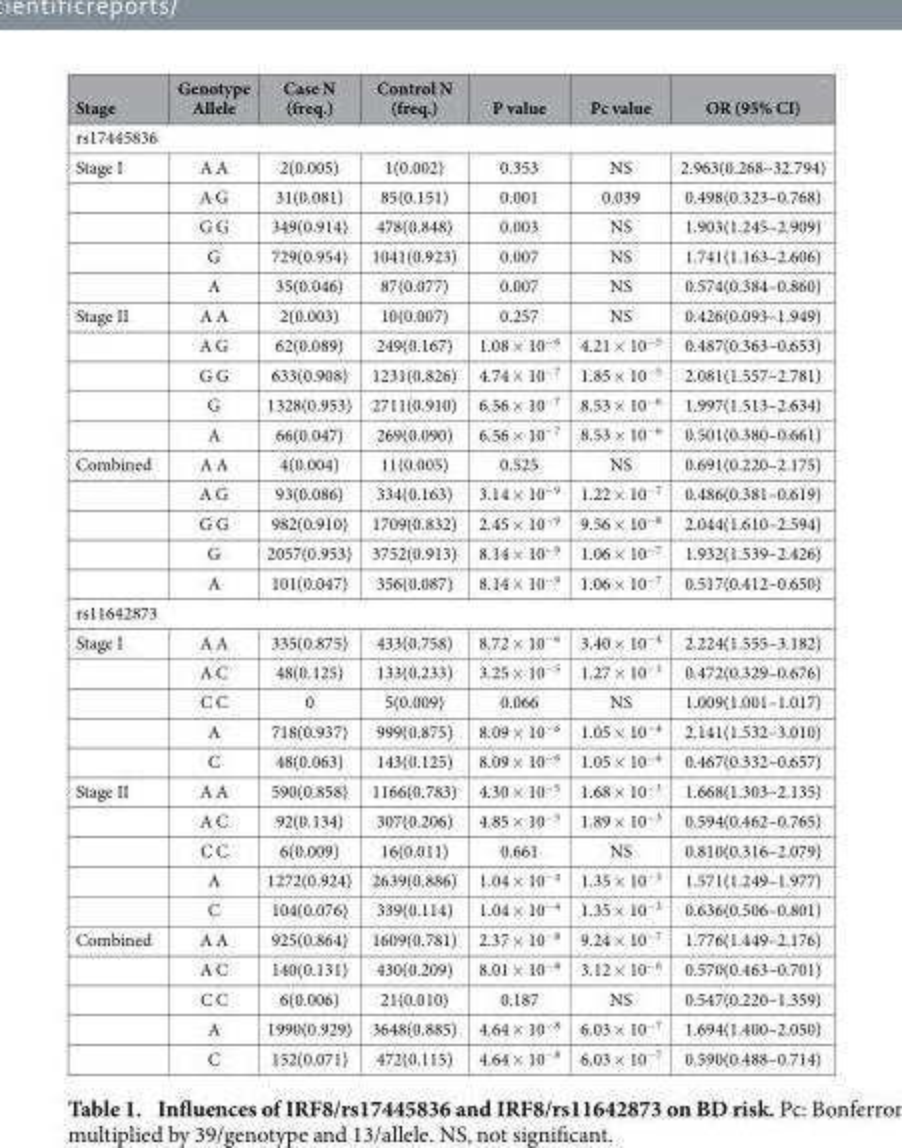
<table><thead><tr><td>Stage</td><td>Genotype Allele</td><td>Case N (freq.)</td><td>Control N (freq.)</td><td>P value</td><td>Pc value</td><td>OR (95% CI)</td></tr></thead><tbody><tr><td colspan="7">rs17445836</td></tr><tr><td rowspan="5">Stage I</td><td>A A</td><td>2(0.005)</td><td>1(0.002)</td><td>0.353</td><td>NS</td><td>2.963(0.268–32.794)</td></tr><tr><td>A G</td><td>31(0.081)</td><td>85(0.151)</td><td>0.001</td><td>0.039</td><td>0.498(0.323–0.768)</td></tr><tr><td>G G</td><td>349(0.914)</td><td>478(0.848)</td><td>0.003</td><td>NS</td><td>1.903(1.245–2.909)</td></tr><tr><td>G</td><td>729(0.954)</td><td>1041(0.923)</td><td>0.007</td><td>NS</td><td>1.741(1.163–2.606)</td></tr><tr><td>A</td><td>35(0.046)</td><td>87(0.077)</td><td>0.007</td><td>NS</td><td>0.574(0.384–0.860)</td></tr><tr><td rowspan="5">Stage II</td><td>A A</td><td>2(0.003)</td><td>10(0.007)</td><td>0.257</td><td>NS</td><td>0.426(0.093–1.949)</td></tr><tr><td>A G</td><td>62(0.089)</td><td>249(0.167)</td><td>1.08 × 10<sup>−6</sup></td><td>4.21 × 10<sup>−5</sup></td><td>0.487(0.363–0.653)</td></tr><tr><td>G G</td><td>633(0.908)</td><td>1231(0.826)</td><td>4.74 × 10<sup>−7</sup></td><td>1.85 × 10<sup>−5</sup></td><td>2.081(1.557–2.781)</td></tr><tr><td>G</td><td>1328(0.953)</td><td>2711(0.910)</td><td>6.56 × 10<sup>−7</sup></td><td>8.53 × 10<sup>−6</sup></td><td>1.997(1.513–2.634)</td></tr><tr><td>A</td><td>66(0.047)</td><td>269(0.090)</td><td>6.56 × 10<sup>−7</sup></td><td>8.53 × 10<sup>−6</sup></td><td>0.501(0.380–0.661)</td></tr><tr><td rowspan="5">Combined</td><td>A A</td><td>4(0.004)</td><td>11(0.005)</td><td>0.525</td><td>NS</td><td>0.691(0.220–2.175)</td></tr><tr><td>A G</td><td>93(0.086)</td><td>334(0.163)</td><td>3.14 × 10<sup>−9</sup></td><td>1.22 × 10<sup>−7</sup></td><td>0.486(0.381–0.619)</td></tr><tr><td>G G</td><td>982(0.910)</td><td>1709(0.832)</td><td>2.45 × 10<sup>−9</sup></td><td>9.56 × 10<sup>−8</sup></td><td>2.044(1.610–2.594)</td></tr><tr><td>G</td><td>2057(0.953)</td><td>3752(0.913)</td><td>8.14 × 10<sup>−9</sup></td><td>1.06 × 10<sup>−7</sup></td><td>1.932(1.539–2.426)</td></tr><tr><td>A</td><td>101(0.047)</td><td>356(0.087)</td><td>8.14 × 10<sup>−9</sup></td><td>1.06 × 10<sup>−7</sup></td><td>0.517(0.412–0.650)</td></tr><tr><td colspan="7">rs11642873</td></tr><tr><td rowspan="5">Stage I</td><td>A A</td><td>335(0.875)</td><td>433(0.758)</td><td>8.72 × 10<sup>−6</sup></td><td>3.40 × 10<sup>−4</sup></td><td>2.224(1.555–3.182)</td></tr><tr><td>A C</td><td>48(0.125)</td><td>133(0.233)</td><td>3.25 × 10<sup>−5</sup></td><td>1.27 × 10<sup>−3</sup></td><td>0.472(0.329–0.676)</td></tr><tr><td>C C</td><td>0</td><td>5(0.009)</td><td>0.066</td><td>NS</td><td>1.009(1.001–1.017)</td></tr><tr><td>A</td><td>718(0.937)</td><td>999(0.875)</td><td>8.09 × 10<sup>−6</sup></td><td>1.05 × 10<sup>−4</sup></td><td>2.141(1.532–3.010)</td></tr><tr><td>C</td><td>48(0.063)</td><td>143(0.125)</td><td>8.09 × 10<sup>−6</sup></td><td>1.05 × 10<sup>−4</sup></td><td>0.467(0.332–0.657)</td></tr><tr><td rowspan="5">Stage II</td><td>A A</td><td>590(0.858)</td><td>1166(0.783)</td><td>4.30 × 10<sup>−5</sup></td><td>1.68 × 10<sup>−3</sup></td><td>1.668(1.303–2.135)</td></tr><tr><td>A C</td><td>92(0.134)</td><td>307(0.206)</td><td>4.85 × 10<sup>−5</sup></td><td>1.89 × 10<sup>−3</sup></td><td>0.594(0.462–0.765)</td></tr><tr><td>C C</td><td>6(0.009)</td><td>16(0.011)</td><td>0.661</td><td>NS</td><td>0.810(0.316–2.079)</td></tr><tr><td>A</td><td>1272(0.924)</td><td>2639(0.886)</td><td>1.04 × 10<sup>−4</sup></td><td>1.35 × 10<sup>−3</sup></td><td>1.571(1.249–1.977)</td></tr><tr><td>C</td><td>104(0.076)</td><td>339(0.114)</td><td>1.04 × 10<sup>−4</sup></td><td>1.35 × 10<sup>−3</sup></td><td>0.636(0.506–0.801)</td></tr><tr><td rowspan="5">Combined</td><td>A A</td><td>925(0.864)</td><td>1609(0.781)</td><td>2.37 × 10<sup>−8</sup></td><td>9.24 × 10<sup>−7</sup></td><td>1.776(1.449–2.176)</td></tr><tr><td>A C</td><td>140(0.131)</td><td>430(0.209)</td><td>8.01 × 10<sup>−8</sup></td><td>3.12 × 10<sup>−6</sup></td><td>0.570(0.463–0.701)</td></tr><tr><td>C C</td><td>6(0.006)</td><td>21(0.010)</td><td>0.187</td><td>NS</td><td>0.547(0.220–1.359)</td></tr><tr><td>A</td><td>1990(0.929)</td><td>3648(0.885)</td><td>4.64 × 10<sup>−8</sup></td><td>6.03 × 10<sup>−7</sup></td><td>1.694(1.400–2.050)</td></tr><tr><td>C</td><td>152(0.071)</td><td>472(0.115)</td><td>4.64 × 10<sup>−8</sup></td><td>6.03 × 10<sup>−7</sup></td><td>0.590(0.488–0.714)</td></tr></tbody></table>